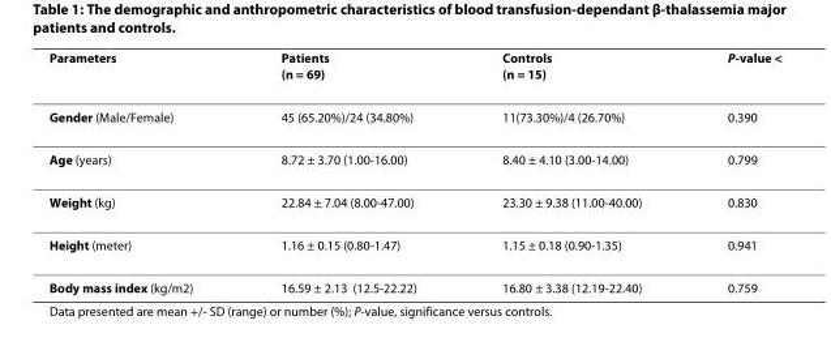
<table><thead><tr><td>Parameters</td><td>Patients (n = 69)</td><td>Controls (n = 15)</td><td>P-value &lt;</td></tr></thead><tbody><tr><td>Gender (Male/Female)</td><td>45 (65.20%)/24 (34.80%)</td><td>11(73.30%)/4 (26.70%)</td><td>0.390</td></tr><tr><td>Age (years)</td><td>8.72 ± 3.70 (1.00-16.00)</td><td>8.40 ± 4.10 (3.00-14.00)</td><td>0.799</td></tr><tr><td>Weight (kg)</td><td>22.84 ± 7.04 (8.00-47.00)</td><td>23.30 ± 9.38 (11.00-40.00)</td><td>0.830</td></tr><tr><td>Height (meter)</td><td>1.16 ± 0.15 (0.80-1.47)</td><td>1.15 ± 0.18 (0.90-1.35)</td><td>0.941</td></tr><tr><td>Body mass index (kg/m2)</td><td>16.59 ± 2.13 (12.5-22.22)</td><td>16.80 ± 3.38 (12.19-22.40)</td><td>0.759</td></tr></tbody></table>